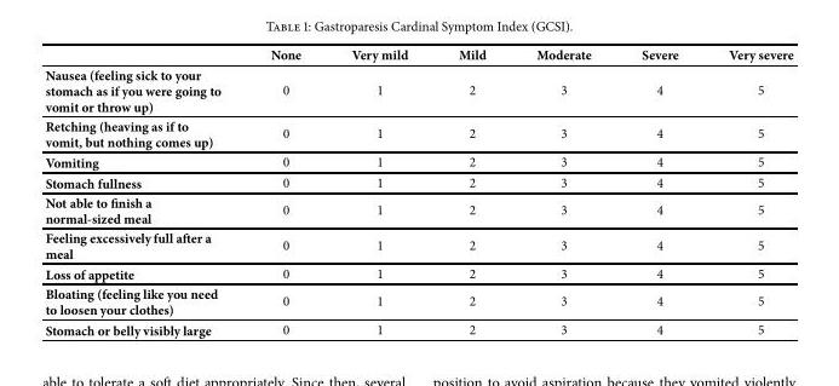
<table><thead><tr><td></td><td>None</td><td>Very mild</td><td>Mild</td><td>Moderate</td><td>Severe</td><td>Very severe</td></tr></thead><tbody><tr><td>Nausea (feeling sick to your stomach as if you were going to vomit or throw up)</td><td>0</td><td>1</td><td>2</td><td>3</td><td>4</td><td>5</td></tr><tr><td>Retching (heaving as if to vomit, but nothing comes up)</td><td>0</td><td>1</td><td>2</td><td>3</td><td>4</td><td>5</td></tr><tr><td>Vomiting</td><td>0</td><td>1</td><td>2</td><td>3</td><td>4</td><td>5</td></tr><tr><td>Stomach fullness</td><td>0</td><td>1</td><td>2</td><td>3</td><td>4</td><td>5</td></tr><tr><td>Not able to finish a normal-sized meal</td><td>0</td><td>1</td><td>2</td><td>3</td><td>4</td><td>5</td></tr><tr><td>Feeling excessively full afer a meal</td><td>0</td><td>1</td><td>2</td><td>3</td><td>4</td><td>5</td></tr><tr><td>Loss of appetite</td><td>0</td><td>1</td><td>2</td><td>3</td><td>4</td><td>5</td></tr><tr><td>Bloating (feeling like you need to loosen your clothes)</td><td>0</td><td>1</td><td>2</td><td>3</td><td>4</td><td>5</td></tr><tr><td>Stomach or belly visibly large</td><td>0</td><td>1</td><td>2</td><td>3</td><td>4</td><td>5</td></tr></tbody></table>